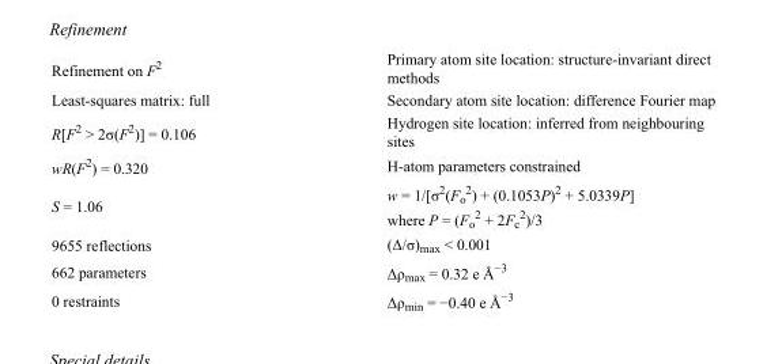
<table><tbody><tr><td>Refinement on F<sup>2</sup></td><td>Primary atom site location: structure-invariant direct methods</td></tr><tr><td>Least-squares matrix: full</td><td>Secondary atom site location: difference Fourier map</td></tr><tr><td>R[F<sup>2</sup> &gt; 2σ(F<sup>2</sup>)] = 0.106</td><td>Hydrogen site location: inferred from neighbouring sites</td></tr><tr><td>wR(F<sup>2</sup>) = 0.320</td><td>H-atom parameters constrained</td></tr><tr><td>S = 1.06</td><td>w = 1/[σ<sup>2</sup>(F<sub>o</sub> <sup>2</sup>) + (0.1053P)<sup>2</sup> + 5.0339P] where P = (F<sub>o</sub> <sup>2</sup> + 2F<sub>c</sub> <sup>2</sup>)/3</td></tr><tr><td>9655 reflections</td><td>(Δ/σ)<sub>max</sub> &lt; 0.001</td></tr><tr><td>662 parameters</td><td>Δρ<sub>max</sub> = 0.32 e Å<sup>−3</sup></td></tr><tr><td>0 restraints</td><td>Δρ<sub>min</sub> = −0.40 e Å<sup>−3</sup></td></tr></tbody></table>